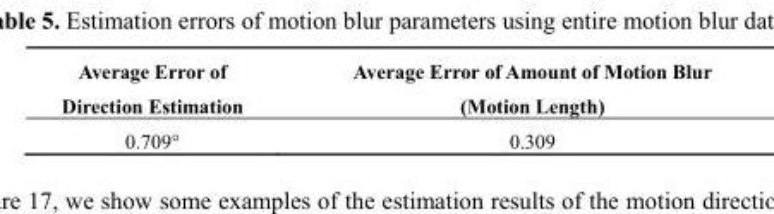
<table><thead><tr><td>Average Error of Direction Estimation</td><td>Average Error of Amount of Motion Blur (Motion Length)</td></tr></thead><tbody><tr><td>0.709°</td><td>0.309</td></tr></tbody></table>